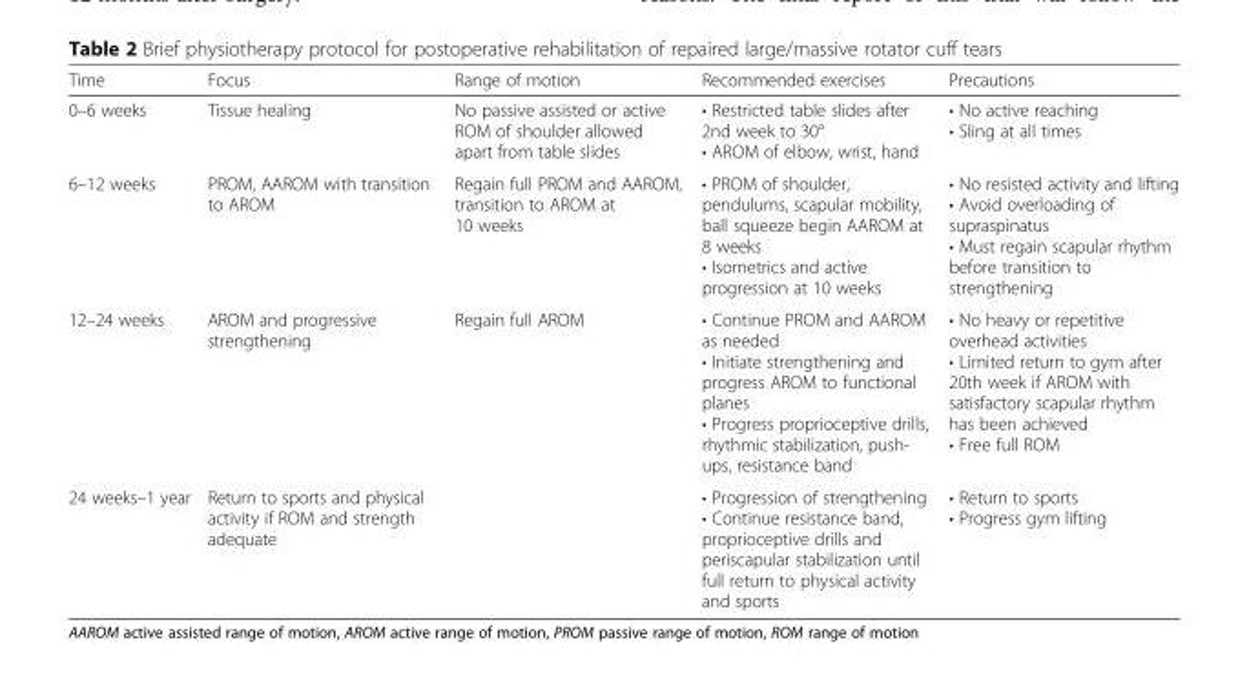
<table><thead><tr><td>Time</td><td>Focus</td><td>Range of motion</td><td>Recommended exercises</td><td>Precautions</td></tr></thead><tbody><tr><td>0–6 weeks</td><td>Tissue healing</td><td>No passive assisted or active ROM of shoulder allowed apart from table slides</td><td>• Restricted table slides after 2nd week to 30° • AROM of elbow, wrist, hand</td><td>• No active reaching • Sling at all times</td></tr><tr><td>6–12 weeks</td><td>PROM, AAROM with transition to AROM</td><td>Regain full PROM and AAROM, transition to AROM at 10 weeks</td><td>• PROM of shoulder, pendulums, scapular mobility, ball squeeze begin AAROM at 8 weeks • Isometrics and active progression at 10 weeks</td><td>• No resisted activity and lifting • Avoid overloading of supraspinatus • Must regain scapular rhythm before transition to strengthening</td></tr><tr><td>12–24 weeks</td><td>AROM and progressive strengthening</td><td>Regain full AROM</td><td>• Continue PROM and AAROM as needed • Initiate strengthening and progress AROM to functional planes • Progress proprioceptive drills, rhythmic stabilization, push- ups, resistance band</td><td>• No heavy or repetitive overhead activities • Limited return to gym after 20th week if AROM with satisfactory scapular rhythm has been achieved • Free full ROM</td></tr><tr><td>24 weeks–1 year</td><td>Return to sports and physical activity if ROM and strength adequate</td><td></td><td>• Progression of strengthening • Continue resistance band, proprioceptive drills and periscapular stabilization until full return to physical activity and sports</td><td>• Return to sports • Progress gym lifting</td></tr></tbody></table>